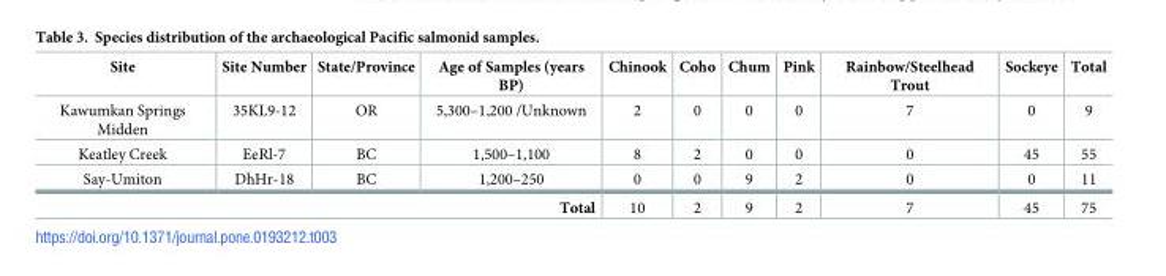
<table><thead><tr><td>Site</td><td>Site Number</td><td>State/Province</td><td>Age of Samples (years BP)</td><td>Chinook</td><td>Coho</td><td>Chum</td><td>Pink</td><td>Rainbow/Steelhead Trout</td><td>Sockeye</td><td>Total</td></tr></thead><tbody><tr><td>Kawumkan Springs Midden</td><td>35KL9-12</td><td>OR</td><td>5,300–1,200 /Unknown</td><td>2</td><td>0</td><td>0</td><td>0</td><td>7</td><td>0</td><td>9</td></tr><tr><td>Keatley Creek</td><td>EeRl-7</td><td>BC</td><td>1,500–1,100</td><td>8</td><td>2</td><td>0</td><td>0</td><td>0</td><td>45</td><td>55</td></tr><tr><td>Say-Umiton</td><td>DhHr-18</td><td>BC</td><td>1,200–250</td><td>0</td><td>0</td><td>9</td><td>2</td><td>0</td><td>0</td><td>11</td></tr><tr><td colspan="4">Total</td><td>10</td><td>2</td><td>9</td><td>2</td><td>7</td><td>45</td><td>75</td></tr></tbody></table>